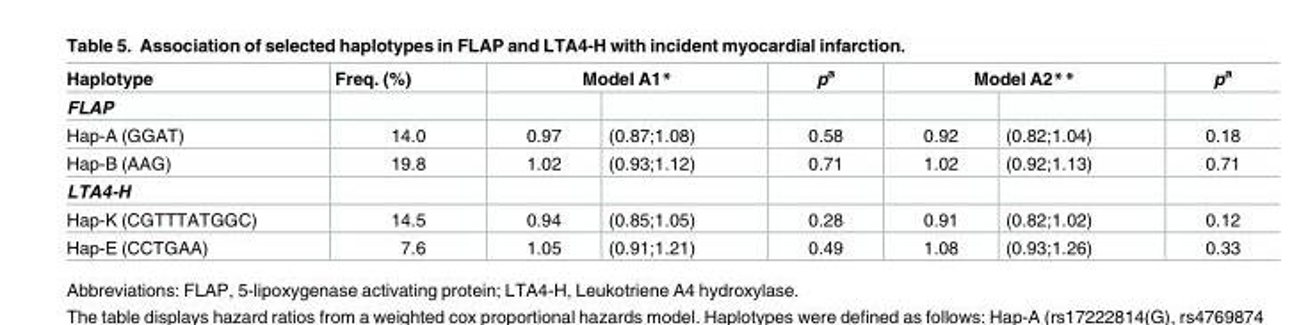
<table><thead><tr><td rowspan="2">Haplotype FLAP</td><td rowspan="2">Freq. (%)</td><td colspan="2">Model A1*</td><td rowspan="2">p<sup>a</sup></td><td colspan="2">Model A2**</td><td rowspan="2">p<sup>a</sup></td></tr><tr><td></td><td></td><td></td><td></td></tr></thead><tbody><tr><td>Hap-A (GGAT)</td><td>14.0</td><td>0.97</td><td>(0.87;1.08)</td><td>0.58</td><td>0.92</td><td>(0.82;1.04)</td><td>0.18</td></tr><tr><td>Hap-B (AAG)</td><td>19.8</td><td>1.02</td><td>(0.93;1.12)</td><td>0.71</td><td>1.02</td><td>(0.92;1.13)</td><td>0.71</td></tr><tr><td colspan="8">LTA4-H</td></tr><tr><td>Hap-K (CGTTTATGGC)</td><td>14.5</td><td>0.94</td><td>(0.85;1.05)</td><td>0.28</td><td>0.91</td><td>(0.82;1.02)</td><td>0.12</td></tr><tr><td>Hap-E (CCTGAA)</td><td>7.6</td><td>1.05</td><td>(0.91;1.21)</td><td>0.49</td><td>1.08</td><td>(0.93;1.26)</td><td>0.33</td></tr></tbody></table>